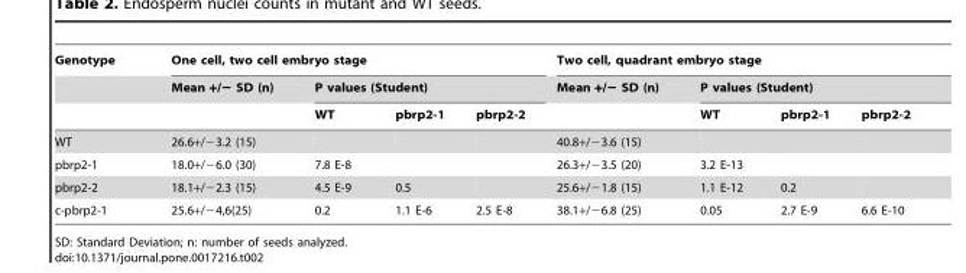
<table><thead><tr><td rowspan="3">Genotype</td><td colspan="4">One cell, two cell embryo stage</td><td colspan="4">Two cell, quadrant embryo stage</td></tr><tr><td rowspan="2">Mean +/− SD (n)</td><td colspan="3">P values (Student)</td><td rowspan="2">Mean +/− SD (n)</td><td colspan="3">P values (Student)</td></tr><tr><td>WT</td><td>pbrp2-1</td><td>pbrp2-2</td><td>WT</td><td>pbrp2-1</td><td>pbrp2-2</td></tr></thead><tbody><tr><td>WT</td><td>26.6+/−3.2 (15)</td><td></td><td></td><td></td><td>40.8+/−3.6 (15)</td><td></td><td></td><td></td></tr><tr><td>pbrp2-1</td><td>18.0+/−6.0 (30)</td><td>7.8 E-8</td><td></td><td></td><td>26.3+/−3.5 (20)</td><td>3.2 E-13</td><td></td><td></td></tr><tr><td>pbrp2-2</td><td>18.1+/−2.3 (15)</td><td>4.5 E-9</td><td>0.5</td><td></td><td>25.6+/−1.8 (15)</td><td>1.1 E-12</td><td>0.2</td><td></td></tr><tr><td>c-pbrp2-1</td><td>25.6+/−4,6(25)</td><td>0.2</td><td>1.1 E-6</td><td>2.5 E-8</td><td>38.1+/−6.8 (25)</td><td>0.05</td><td>2.7 E-9</td><td>6.6 E-10</td></tr></tbody></table>